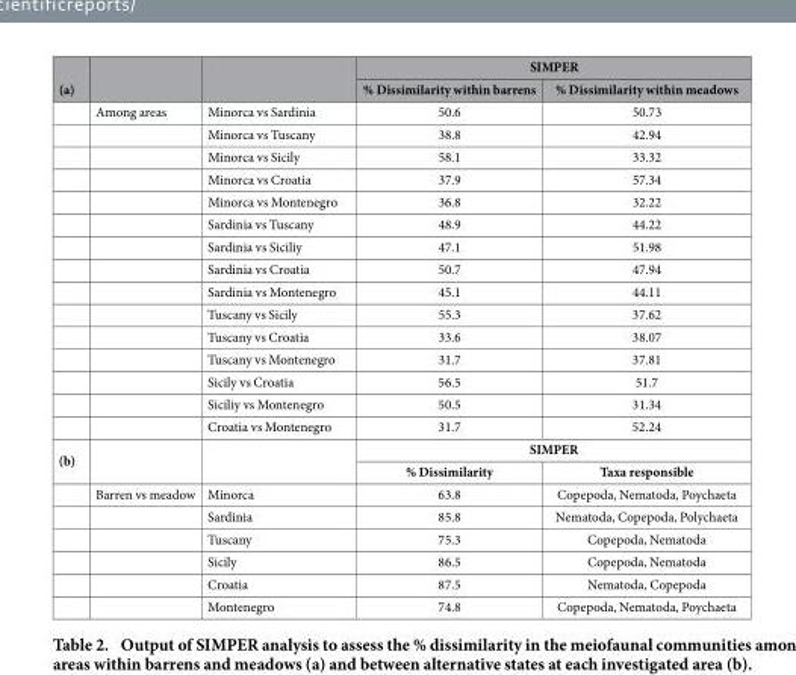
<table><thead><tr><td rowspan="2">(a)</td><td rowspan="2"></td><td rowspan="2"></td><td colspan="2">SIMPER</td></tr><tr><td>% Dissimilarity within barrens</td><td>% Dissimilarity within meadows</td></tr></thead><tbody><tr><td></td><td>Among areas</td><td>Minorca vs Sardinia</td><td>50.6</td><td>50.73</td></tr><tr><td></td><td></td><td>Minorca vs Tuscany</td><td>38.8</td><td>42.94</td></tr><tr><td></td><td></td><td>Minorca vs Sicily</td><td>58.1</td><td>33.32</td></tr><tr><td></td><td></td><td>Minorca vs Croatia</td><td>37.9</td><td>57.34</td></tr><tr><td></td><td></td><td>Minorca vs Montenegro</td><td>36.8</td><td>32.22</td></tr><tr><td></td><td></td><td>Sardinia vs Tuscany</td><td>48.9</td><td>44.22</td></tr><tr><td></td><td></td><td>Sardinia vs Siciliy</td><td>47.1</td><td>51.98</td></tr><tr><td></td><td></td><td>Sardinia vs Croatia</td><td>50.7</td><td>47.94</td></tr><tr><td></td><td></td><td>Sardinia vs Montenegro</td><td>45.1</td><td>44.11</td></tr><tr><td></td><td></td><td>Tuscany vs Sicily</td><td>55.3</td><td>37.62</td></tr><tr><td></td><td></td><td>Tuscany vs Croatia</td><td>33.6</td><td>38.07</td></tr><tr><td></td><td></td><td>Tuscany vs Montenegro</td><td>31.7</td><td>37.81</td></tr><tr><td></td><td></td><td>Sicily vs Croatia</td><td>56.5</td><td>51.7</td></tr><tr><td></td><td></td><td>Siciliy vs Montenegro</td><td>50.5</td><td>31.34</td></tr><tr><td></td><td></td><td>Croatia vs Montenegro</td><td>31.7</td><td>52.24</td></tr><tr><td rowspan="8">(b)</td><td rowspan="2"></td><td rowspan="2"></td><td colspan="2">SIMPER</td></tr><tr><td>% Dissimilarity</td><td>Taxa responsible</td></tr><tr><td>Barren vs meadow</td><td>Minorca</td><td>63.8</td><td>Copepoda, Nematoda, Poychaeta</td></tr><tr><td></td><td>Sardinia</td><td>85.8</td><td>Nematoda, Copepoda, Polychaeta</td></tr><tr><td></td><td>Tuscany</td><td>75.3</td><td>Copepoda, Nematoda</td></tr><tr><td></td><td>Sicily</td><td>86.5</td><td>Copepoda, Nematoda</td></tr><tr><td></td><td>Croatia</td><td>87.5</td><td>Nematoda, Copepoda</td></tr><tr><td></td><td>Montenegro</td><td>74.8</td><td>Copepoda, Nematoda, Poychaeta</td></tr></tbody></table>